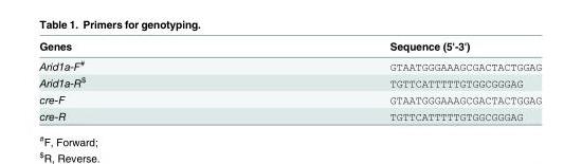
<table><thead><tr><td>Genes</td><td>Sequence (5&#x27;-3&#x27;)</td></tr></thead><tbody><tr><td>Arid1a-F<sup>#</sup></td><td>GTAATGGGAAAGCGACTACTGGAG</td></tr><tr><td>Arid1a-R<sup>$</sup></td><td>TGTTCATTTTTGTGGCGGGAG</td></tr><tr><td>cre-F</td><td>GTAATGGGAAAGCGACTACTGGAG</td></tr><tr><td>cre-R</td><td>TGTTCATTTTTGTGGCGGGAG</td></tr></tbody></table>